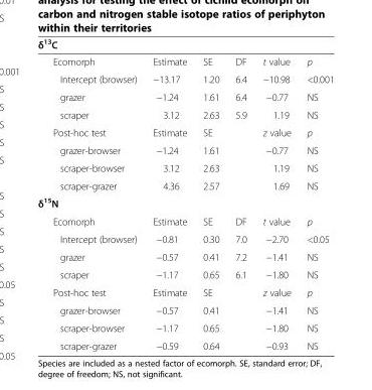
<table><thead><tr><td>δ<sup>13</sup>C</td><td></td><td></td><td></td><td></td><td></td></tr></thead><tbody><tr><td>Ecomorph</td><td>Estimate</td><td>SE</td><td>DF</td><td>t value</td><td>p</td></tr><tr><td>Intercept (browser)</td><td>−13.17</td><td>1.20</td><td>6.4</td><td>−10.98</td><td>&lt;0.001</td></tr><tr><td>grazer</td><td>−1.24</td><td>1.61</td><td>6.4</td><td>−0.77</td><td>NS</td></tr><tr><td>scraper</td><td>3.12</td><td>2.63</td><td>5.9</td><td>1.19</td><td>NS</td></tr><tr><td>Post-hoc test</td><td>Estimate</td><td>SE</td><td></td><td>z value</td><td>p</td></tr><tr><td>grazer-browser</td><td>−1.24</td><td>1.61</td><td></td><td>−0.77</td><td>NS</td></tr><tr><td>scraper-browser</td><td>3.12</td><td>2.63</td><td></td><td>1.19</td><td>NS</td></tr><tr><td>scraper-grazer</td><td>4.36</td><td>2.57</td><td></td><td>1.69</td><td>NS</td></tr><tr><td colspan="6">δ<sup>15</sup>N</td></tr><tr><td>Ecomorph</td><td>Estimate</td><td>SE</td><td>DF</td><td>t value</td><td>p</td></tr><tr><td>Intercept (browser)</td><td>−0.81</td><td>0.30</td><td>7.0</td><td>−2.70</td><td>&lt;0.05</td></tr><tr><td>grazer</td><td>−0.57</td><td>0.41</td><td>7.2</td><td>−1.41</td><td>NS</td></tr><tr><td>scraper</td><td>−1.17</td><td>0.65</td><td>6.1</td><td>−1.80</td><td>NS</td></tr><tr><td>Post-hoc test</td><td>Estimate</td><td>SE</td><td></td><td>z value</td><td>p</td></tr><tr><td>grazer-browser</td><td>−0.57</td><td>0.41</td><td></td><td>−1.41</td><td>NS</td></tr><tr><td>scraper-browser</td><td>−1.17</td><td>0.65</td><td></td><td>−1.80</td><td>NS</td></tr><tr><td>scraper-grazer</td><td>−0.59</td><td>0.64</td><td></td><td>−0.93</td><td>NS</td></tr></tbody></table>